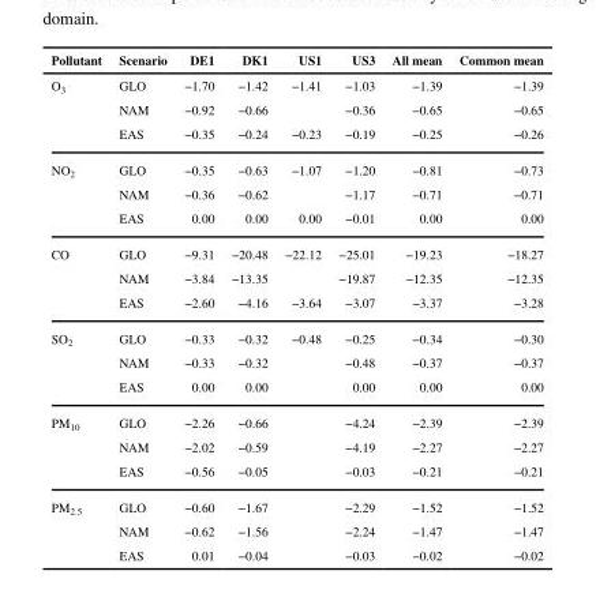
<table><thead><tr><td>Pollutant</td><td>Scenario</td><td>DE1</td><td>DK1</td><td>US1</td><td>US3</td><td>All mean</td><td>Common mean</td></tr></thead><tbody><tr><td rowspan="3">O<sub>3</sub></td><td>GLO</td><td>−1.70</td><td>−1.42</td><td>−1.41</td><td>−1.03</td><td>−1.39</td><td>−1.39</td></tr><tr><td>NAM</td><td>−0.92</td><td>−0.66</td><td></td><td>−0.36</td><td>−0.65</td><td>−0.65</td></tr><tr><td>EAS</td><td>−0.35</td><td>−0.24</td><td>−0.23</td><td>−0.19</td><td>−0.25</td><td>−0.26</td></tr><tr><td rowspan="3">NO<sub>2</sub></td><td>GLO</td><td>−0.35</td><td>−0.63</td><td>−1.07</td><td>−1.20</td><td>−0.81</td><td>−0.73</td></tr><tr><td>NAM</td><td>−0.36</td><td>−0.62</td><td></td><td>−1.17</td><td>−0.71</td><td>−0.71</td></tr><tr><td>EAS</td><td>0.00</td><td>0.00</td><td>0.00</td><td>−0.01</td><td>0.00</td><td>0.00</td></tr><tr><td rowspan="3">CO</td><td>GLO</td><td>−9.31</td><td>−20.48</td><td>−22.12</td><td>−25.01</td><td>−19.23</td><td>−18.27</td></tr><tr><td>NAM</td><td>−3.84</td><td>−13.35</td><td></td><td>−19.87</td><td>−12.35</td><td>−12.35</td></tr><tr><td>EAS</td><td>−2.60</td><td>−4.16</td><td>−3.64</td><td>−3.07</td><td>−3.37</td><td>−3.28</td></tr><tr><td rowspan="3">SO<sub>2</sub></td><td>GLO</td><td>−0.33</td><td>−0.32</td><td>−0.48</td><td>−0.25</td><td>−0.34</td><td>−0.30</td></tr><tr><td>NAM</td><td>−0.33</td><td>−0.32</td><td></td><td>−0.48</td><td>−0.37</td><td>−0.37</td></tr><tr><td>EAS</td><td>0.00</td><td>0.00</td><td></td><td>0.00</td><td>0.00</td><td>0.00</td></tr><tr><td rowspan="3">PM<sub>10</sub></td><td>GLO</td><td>−2.26</td><td>−0.66</td><td></td><td>−4.24</td><td>−2.39</td><td>−2.39</td></tr><tr><td>NAM</td><td>−2.02</td><td>−0.59</td><td></td><td>−4.19</td><td>−2.27</td><td>−2.27</td></tr><tr><td>EAS</td><td>−0.56</td><td>−0.05</td><td></td><td>−0.03</td><td>−0.21</td><td>−0.21</td></tr><tr><td rowspan="3">PM<sub>2.5</sub></td><td>GLO</td><td>−0.60</td><td>−1.67</td><td></td><td>−2.29</td><td>−1.52</td><td>−1.52</td></tr><tr><td>NAM</td><td>−0.62</td><td>−1.56</td><td></td><td>−2.24</td><td>−1.47</td><td>−1.47</td></tr><tr><td>EAS</td><td>0.01</td><td>−0.04</td><td></td><td>−0.03</td><td>−0.02</td><td>−0.02</td></tr></tbody></table>